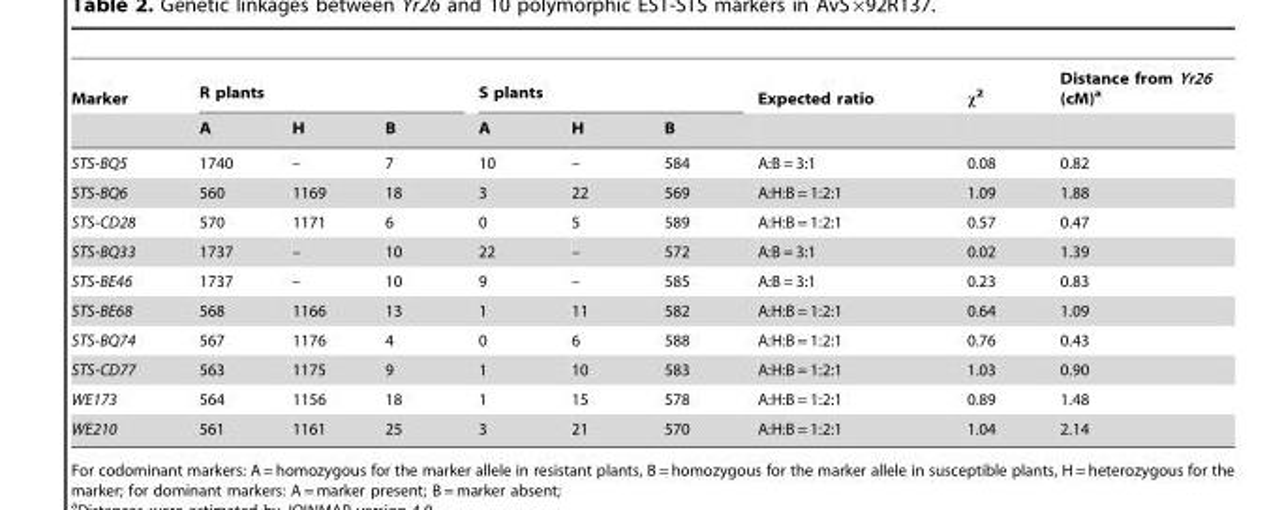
<table><thead><tr><td rowspan="2">Marker</td><td colspan="3">R plants</td><td colspan="3">S plants</td><td rowspan="2">Expected ratio</td><td rowspan="2">χ<sup>2</sup></td><td rowspan="2">Distance from Yr26 (cM)<sup>a</sup></td></tr><tr><td>A</td><td>H</td><td>B</td><td>A</td><td>H</td><td>B</td></tr></thead><tbody><tr><td>STS-BQ5</td><td>1740</td><td>–</td><td>7</td><td>10</td><td>–</td><td>584</td><td>A:B = 3:1</td><td>0.08</td><td>0.82</td></tr><tr><td>STS-BQ6</td><td>560</td><td>1169</td><td>18</td><td>3</td><td>22</td><td>569</td><td>A:H:B = 1:2:1</td><td>1.09</td><td>1.88</td></tr><tr><td>STS-CD28</td><td>570</td><td>1171</td><td>6</td><td>0</td><td>5</td><td>589</td><td>A:H:B = 1:2:1</td><td>0.57</td><td>0.47</td></tr><tr><td>STS-BQ33</td><td>1737</td><td>–</td><td>10</td><td>22</td><td>–</td><td>572</td><td>A:B = 3:1</td><td>0.02</td><td>1.39</td></tr><tr><td>STS-BE46</td><td>1737</td><td>–</td><td>10</td><td>9</td><td>–</td><td>585</td><td>A:B = 3:1</td><td>0.23</td><td>0.83</td></tr><tr><td>STS-BE68</td><td>568</td><td>1166</td><td>13</td><td>1</td><td>11</td><td>582</td><td>A:H:B = 1:2:1</td><td>0.64</td><td>1.09</td></tr><tr><td>STS-BQ74</td><td>567</td><td>1176</td><td>4</td><td>0</td><td>6</td><td>588</td><td>A:H:B = 1:2:1</td><td>0.76</td><td>0.43</td></tr><tr><td>STS-CD77</td><td>563</td><td>1175</td><td>9</td><td>1</td><td>10</td><td>583</td><td>A:H:B = 1:2:1</td><td>1.03</td><td>0.90</td></tr><tr><td>WE173</td><td>564</td><td>1156</td><td>18</td><td>1</td><td>15</td><td>578</td><td>A:H:B = 1:2:1</td><td>0.89</td><td>1.48</td></tr><tr><td>WE210</td><td>561</td><td>1161</td><td>25</td><td>3</td><td>21</td><td>570</td><td>A:H:B = 1:2:1</td><td>1.04</td><td>2.14</td></tr></tbody></table>